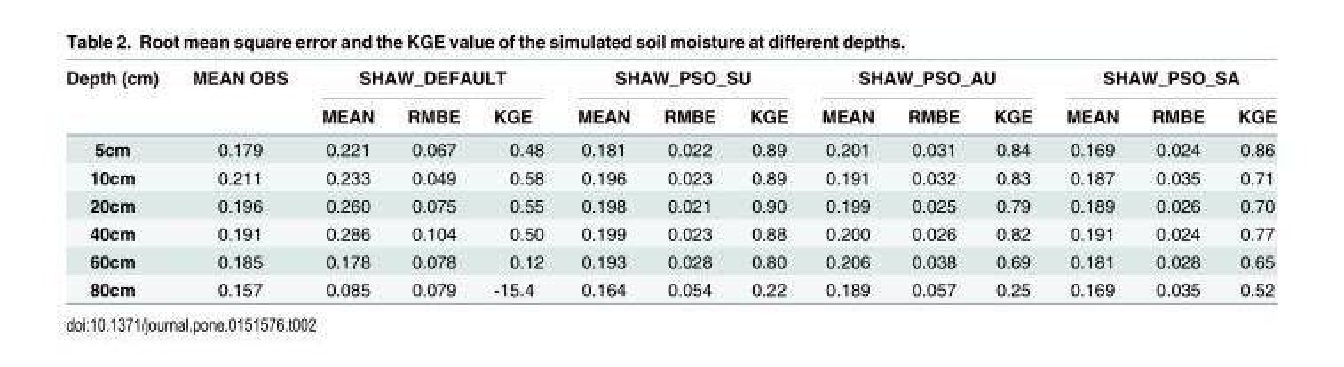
<table><thead><tr><td rowspan="2">Depth (cm)</td><td rowspan="2">MEAN OBS</td><td colspan="3">SHAW_DEFAULT</td><td colspan="3">SHAW_PSO_SU</td><td colspan="3">SHAW_PSO_AU</td><td colspan="3">SHAW_PSO_SA</td></tr><tr><td>MEAN</td><td>RMBE</td><td>KGE</td><td>MEAN</td><td>RMBE</td><td>KGE</td><td>MEAN</td><td>RMBE</td><td>KGE</td><td>MEAN</td><td>RMBE</td><td>KGE</td></tr></thead><tbody><tr><td>5cm</td><td>0.179</td><td>0.221</td><td>0.067</td><td>0.48</td><td>0.181</td><td>0.022</td><td>0.89</td><td>0.201</td><td>0.031</td><td>0.84</td><td>0.169</td><td>0.024</td><td>0.86</td></tr><tr><td>10cm</td><td>0.211</td><td>0.233</td><td>0.049</td><td>0.58</td><td>0.196</td><td>0.023</td><td>0.89</td><td>0.191</td><td>0.032</td><td>0.83</td><td>0.187</td><td>0.035</td><td>0.71</td></tr><tr><td>20cm</td><td>0.196</td><td>0.260</td><td>0.075</td><td>0.55</td><td>0.198</td><td>0.021</td><td>0.90</td><td>0.199</td><td>0.025</td><td>0.79</td><td>0.189</td><td>0.026</td><td>0.70</td></tr><tr><td>40cm</td><td>0.191</td><td>0.286</td><td>0.104</td><td>0.50</td><td>0.199</td><td>0.023</td><td>0.88</td><td>0.200</td><td>0.026</td><td>0.82</td><td>0.191</td><td>0.024</td><td>0.77</td></tr><tr><td>60cm</td><td>0.185</td><td>0.178</td><td>0.078</td><td>0.12</td><td>0.193</td><td>0.028</td><td>0.80</td><td>0.206</td><td>0.038</td><td>0.69</td><td>0.181</td><td>0.028</td><td>0.65</td></tr><tr><td>80cm</td><td>0.157</td><td>0.085</td><td>0.079</td><td>-15.4</td><td>0.164</td><td>0.054</td><td>0.22</td><td>0.189</td><td>0.057</td><td>0.25</td><td>0.169</td><td>0.035</td><td>0.52</td></tr></tbody></table>